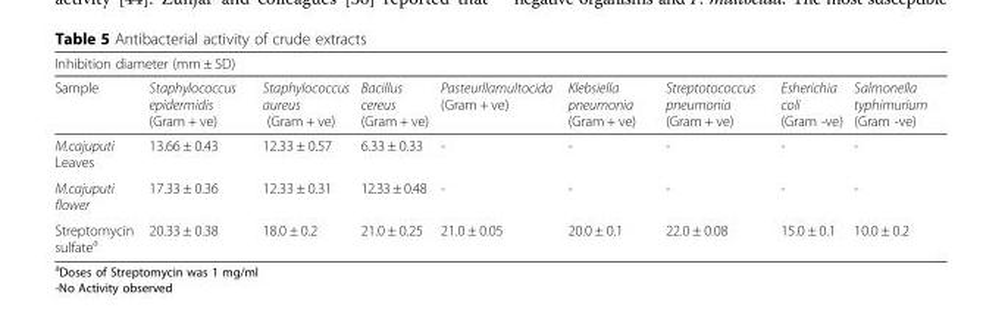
<table><thead><tr><td colspan="9">Inhibition diameter (mm ± SD)</td></tr><tr><td>Sample</td><td>Staphylococcus epidermidis (Gram + ve)</td><td>Staphylococcus aureus (Gram + ve)</td><td>Bacillus cereus (Gram + ve)</td><td>Pasteurllamultocida (Gram + ve)</td><td>Klebsiella pneumonia (Gram + ve)</td><td>Streptotococcus pneumonia (Gram + ve)</td><td>Esherichia coli (Gram -ve)</td><td>Salmonella typhimurium (Gram -ve)</td></tr></thead><tbody><tr><td>M.cajuputi Leaves</td><td>13.66 ± 0.43</td><td>12.33 ± 0.57</td><td>6.33 ± 0.33</td><td>-</td><td>-</td><td>-</td><td>-</td><td>-</td></tr><tr><td>M.cajuputi flower</td><td>17.33 ± 0.36</td><td>12.33 ± 0.31</td><td>12.33 ± 0.48</td><td>-</td><td>-</td><td>-</td><td>-</td><td>-</td></tr><tr><td>Streptomycin sulfate<sup>a</sup></td><td>20.33 ± 0.38</td><td>18.0 ± 0.2</td><td>21.0 ± 0.25</td><td>21.0 ± 0.05</td><td>20.0 ± 0.1</td><td>22.0 ± 0.08</td><td>15.0 ± 0.1</td><td>10.0 ± 0.2</td></tr></tbody></table>